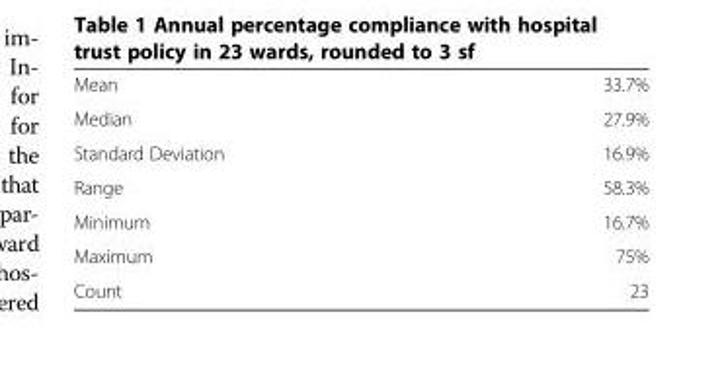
<table><tbody><tr><td>Mean</td><td>33.7%</td></tr><tr><td>Median</td><td>27.9%</td></tr><tr><td>Standard Deviation</td><td>16.9%</td></tr><tr><td>Range</td><td>58.3%</td></tr><tr><td>Minimum</td><td>16.7%</td></tr><tr><td>Maximum</td><td>75%</td></tr><tr><td>Count</td><td>23</td></tr></tbody></table>